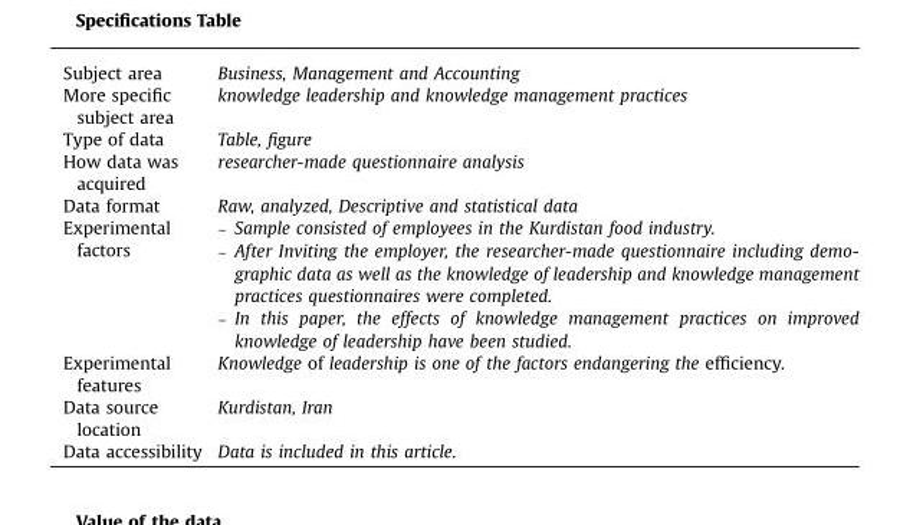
<table><tbody><tr><td>Subject area</td><td>Business, Management and Accounting</td></tr><tr><td>More specific subject area</td><td>knowledge leadership and knowledge management practices</td></tr><tr><td>Type of data</td><td>Table, figure</td></tr><tr><td>How data was acquired</td><td>researcher-made questionnaire analysis</td></tr><tr><td>Data format</td><td>Raw, analyzed, Descriptive and statistical data</td></tr><tr><td>Experimental factors</td><td>– Sample consisted of employees in the Kurdistan food industry. – After Inviting the employer, the researcher-made questionnaire including demo- graphic data as well as the knowledge of leadership and knowledge management practices questionnaires were completed. – In this paper, the effects of knowledge management practices on improved knowledge of leadership have been studied.</td></tr><tr><td>Experimental features</td><td>Knowledge of leadership is one of the factors endangering the efficiency.</td></tr><tr><td>Data source location</td><td>Kurdistan, Iran</td></tr><tr><td>Data accessibility</td><td>Data is included in this article.</td></tr></tbody></table>